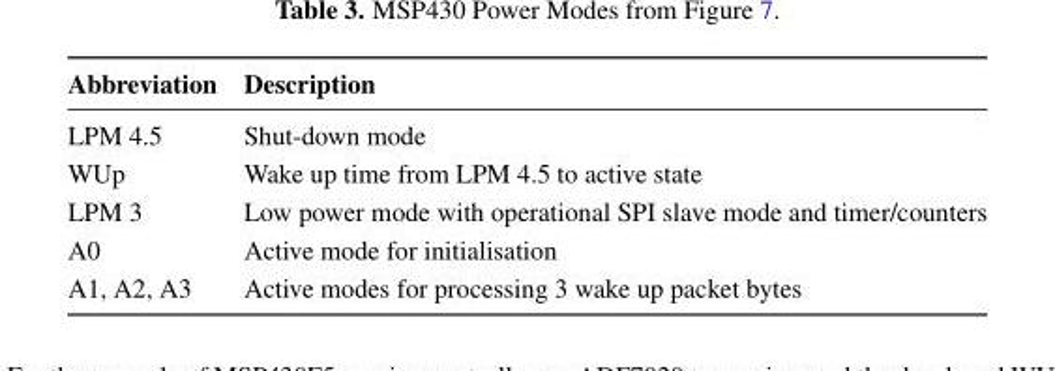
<table><thead><tr><td>Abbreviation</td><td>Description</td></tr></thead><tbody><tr><td>LPM 4.5</td><td>Shut-down mode</td></tr><tr><td>WUp</td><td>Wake up time from LPM 4.5 to active state</td></tr><tr><td>LPM 3</td><td>Low power mode with operational SPI slave mode and timer/counters</td></tr><tr><td>A0</td><td>Active mode for initialisation</td></tr><tr><td>A1, A2, A3</td><td>Active modes for processing 3 wake up packet bytes</td></tr></tbody></table>